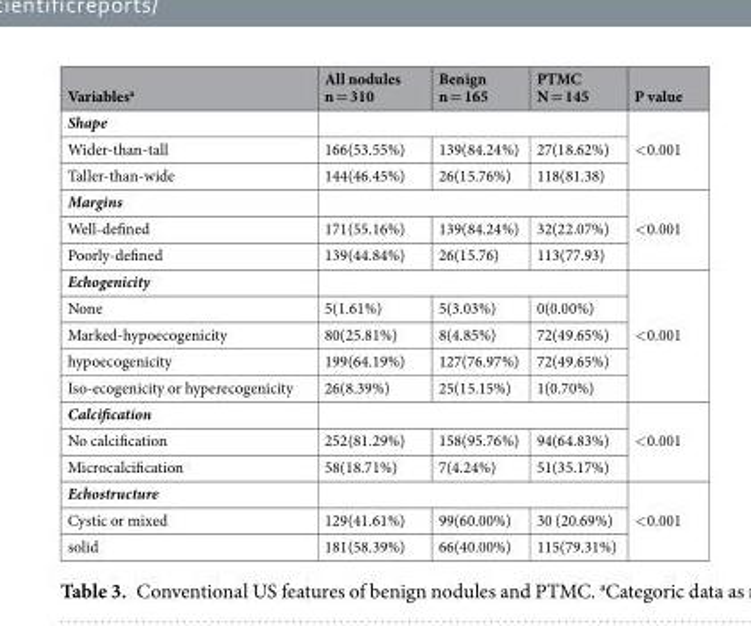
<table><thead><tr><td>Variables<sup>a</sup></td><td>All nodules n = 310</td><td>Benign n = 165</td><td>PTMC N = 145</td><td>P value</td></tr></thead><tbody><tr><td colspan="4">Shape</td><td rowspan="3">&lt;0.001</td></tr><tr><td>Wider-than-tall</td><td>166(53.55%)</td><td>139(84.24%)</td><td>27(18.62%)</td></tr><tr><td>Taller-than-wide</td><td>144(46.45%)</td><td>26(15.76%)</td><td>118(81.38)</td></tr><tr><td colspan="4">Margins</td><td rowspan="3">&lt;0.001</td></tr><tr><td>Well-defined</td><td>171(55.16%)</td><td>139(84.24%)</td><td>32(22.07%)</td></tr><tr><td>Poorly-defined</td><td>139(44.84%)</td><td>26(15.76)</td><td>113(77.93)</td></tr><tr><td colspan="4">Echogenicity</td><td rowspan="5">&lt;0.001</td></tr><tr><td>None</td><td>5(1.61%)</td><td>5(3.03%)</td><td>0(0.00%)</td></tr><tr><td>Marked-hypoecogenicity</td><td>80(25.81%)</td><td>8(4.85%)</td><td>72(49.65%)</td></tr><tr><td>hypoecogenicity</td><td>199(64.19%)</td><td>127(76.97%)</td><td>72(49.65%)</td></tr><tr><td>Iso-ecogenicity or hyperecogenicity</td><td>26(8.39%)</td><td>25(15.15%)</td><td>1(0.70%)</td></tr><tr><td colspan="4">Calcification</td><td rowspan="3">&lt;0.001</td></tr><tr><td>No calcification</td><td>252(81.29%)</td><td>158(95.76%)</td><td>94(64.83%)</td></tr><tr><td>Microcalcification</td><td>58(18.71%)</td><td>7(4.24%)</td><td>51(35.17%)</td></tr><tr><td colspan="4">Echostructure</td><td rowspan="3">&lt;0.001</td></tr><tr><td>Cystic or mixed</td><td>129(41.61%)</td><td>99(60.00%)</td><td>30 (20.69%)</td></tr><tr><td>solid</td><td>181(58.39%)</td><td>66(40.00%)</td><td>115(79.31%)</td></tr></tbody></table>